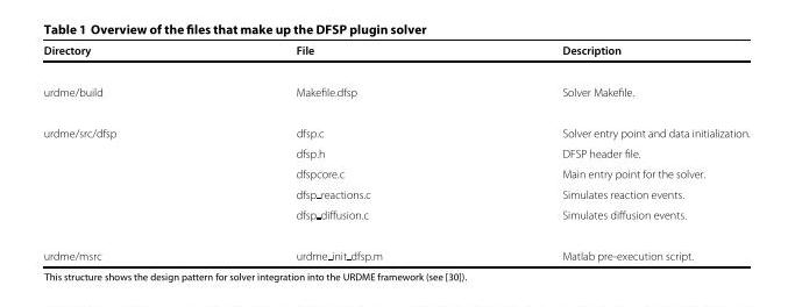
<table><thead><tr><td>Directory</td><td>File</td><td>Description</td></tr></thead><tbody><tr><td>urdme/build</td><td>Makefile.dfsp</td><td>Solver Makefile.</td></tr><tr><td rowspan="5">urdme/src/dfsp</td><td>dfsp.c</td><td>Solver entry point and data initialization.</td></tr><tr><td>dfsp.h</td><td>DFSP header file.</td></tr><tr><td>dfspcore.c</td><td>Main entry point for the solver.</td></tr><tr><td>dfsp reactions.c</td><td>Simulates reaction events.</td></tr><tr><td>dfsp diffusion.c</td><td>Simulates diffusion events.</td></tr><tr><td>urdme/msrc</td><td>urdme <sub>init</sub> dfsp.m</td><td>Matlab pre-execution script.</td></tr></tbody></table>